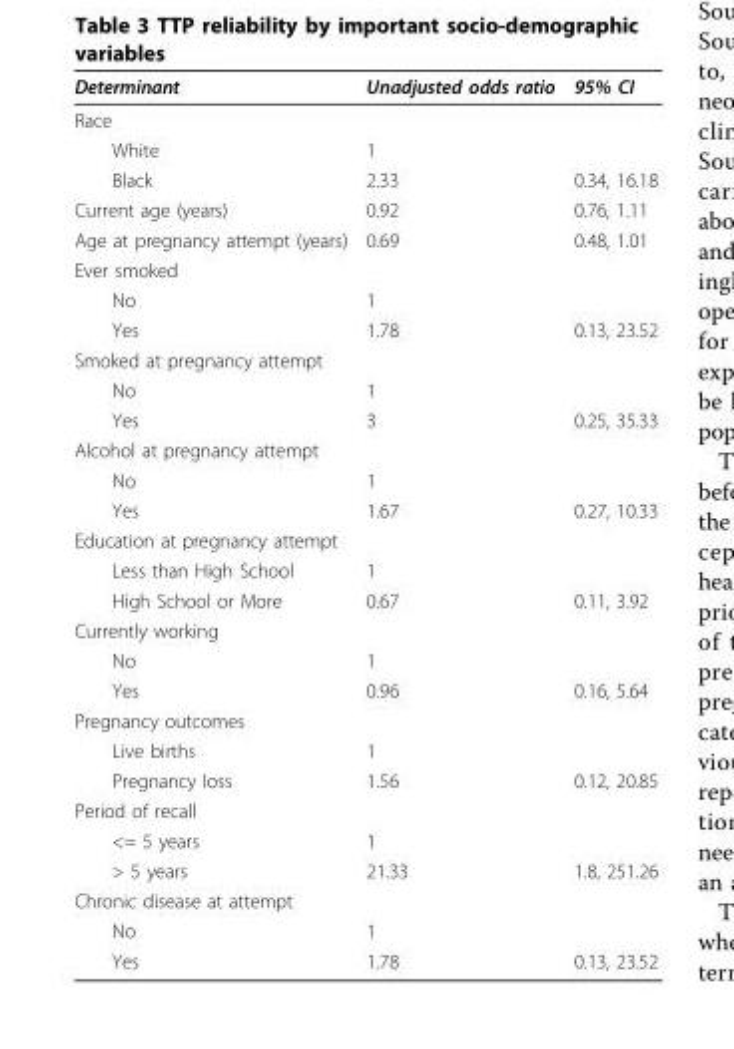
<table><thead><tr><td>Determinant</td><td>Unadjusted odds ratio</td><td>95% CI</td></tr></thead><tbody><tr><td colspan="3">Race</td></tr><tr><td>White</td><td>1</td><td></td></tr><tr><td>Black</td><td>2.33</td><td>0.34, 16.18</td></tr><tr><td>Current age (years)</td><td>0.92</td><td>0.76, 1.11</td></tr><tr><td>Age at pregnancy attempt (years)</td><td>0.69</td><td>0.48, 1.01</td></tr><tr><td colspan="3">Ever smoked</td></tr><tr><td>No</td><td>1</td><td></td></tr><tr><td>Yes</td><td>1.78</td><td>0.13, 23.52</td></tr><tr><td colspan="3">Smoked at pregnancy attempt</td></tr><tr><td>No</td><td>1</td><td></td></tr><tr><td>Yes</td><td>3</td><td>0.25, 35.33</td></tr><tr><td colspan="3">Alcohol at pregnancy attempt</td></tr><tr><td>No</td><td>1</td><td></td></tr><tr><td>Yes</td><td>1.67</td><td>0.27, 10.33</td></tr><tr><td colspan="3">Education at pregnancy attempt</td></tr><tr><td>Less than High School</td><td>1</td><td></td></tr><tr><td>High School or More</td><td>0.67</td><td>0.11, 3.92</td></tr><tr><td colspan="3">Currently working</td></tr><tr><td>No</td><td>1</td><td></td></tr><tr><td>Yes</td><td>0.96</td><td>0.16, 5.64</td></tr><tr><td colspan="3">Pregnancy outcomes</td></tr><tr><td>Live births</td><td>1</td><td></td></tr><tr><td>Pregnancy loss</td><td>1.56</td><td>0.12, 20.85</td></tr><tr><td colspan="3">Period of recall</td></tr><tr><td>&lt;= 5 years</td><td>1</td><td></td></tr><tr><td>&gt; 5 years</td><td>21.33</td><td>1.8, 251.26</td></tr><tr><td colspan="3">Chronic disease at attempt</td></tr><tr><td>No</td><td>1</td><td></td></tr><tr><td>Yes</td><td>1.78</td><td>0.13, 23.52</td></tr></tbody></table>